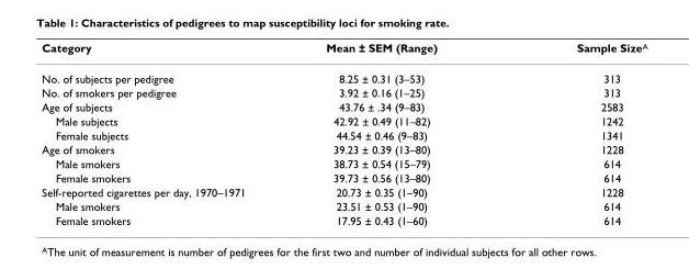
<table><thead><tr><td>Category</td><td>Mean ± SEM (Range)</td><td>Sample SizeA</td></tr></thead><tbody><tr><td>No. of subjects per pedigree</td><td>8.25 ± 0.31 (3–53)</td><td>313</td></tr><tr><td>No. of smokers per pedigree</td><td>3.92 ± 0.16 (1–25)</td><td>313</td></tr><tr><td>Age of subjects</td><td>43.76 ± .34 (9–83)</td><td>2583</td></tr><tr><td>Male subjects</td><td>42.92 ± 0.49 (11–82)</td><td>1242</td></tr><tr><td>Female subjects</td><td>44.54 ± 0.46 (9–83)</td><td>1341</td></tr><tr><td>Age of smokers</td><td>39.23 ± 0.39 (13–80)</td><td>1228</td></tr><tr><td>Male smokers</td><td>38.73 ± 0.54 (15–79)</td><td>614</td></tr><tr><td>Female smokers</td><td>39.73 ± 0.56 (13–80)</td><td>614</td></tr><tr><td>Self-reported cigarettes per day, 1970–1971</td><td>20.73 ± 0.35 (1–90)</td><td>1228</td></tr><tr><td>Male smokers</td><td>23.51 ± 0.53 (1–90)</td><td>614</td></tr><tr><td>Female smokers</td><td>17.95 ± 0.43 (1–60)</td><td>614</td></tr></tbody></table>